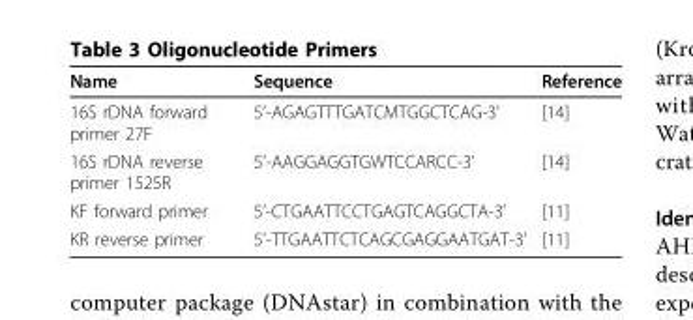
<table><thead><tr><td>Name</td><td>Sequence</td><td>Reference</td></tr></thead><tbody><tr><td>16S rDNA forward primer 27F</td><td>5’-AGAGTTTGATCMTGGCTCAG-3’</td><td>[14]</td></tr><tr><td>16S rDNA reverse primer 1525R</td><td>5’-AAGGAGGTGWTCCARCC-3’</td><td>[14]</td></tr><tr><td>KF forward primer</td><td>5’-CTGAATTCCTGAGTCAGGCTA-3’</td><td>[11]</td></tr><tr><td>KR reverse primer</td><td>5’-TTGAATTCTCAGCGAGGAATGAT-3’</td><td>[11]</td></tr></tbody></table>